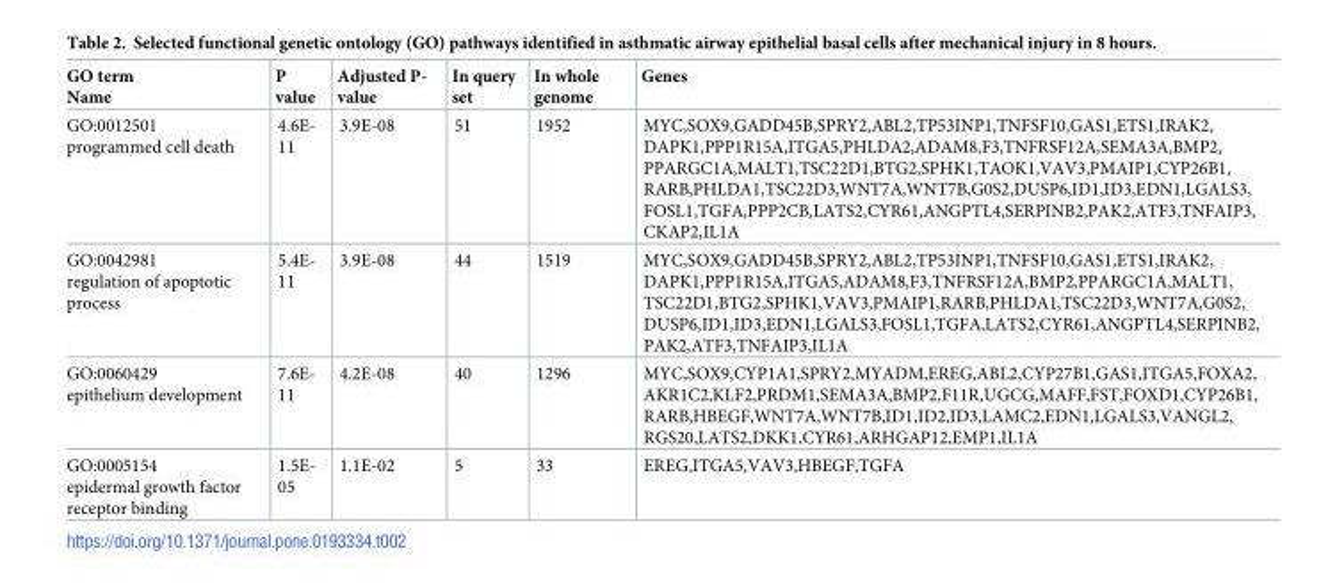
<table><thead><tr><td>GO term Name</td><td>P value</td><td>Adjusted P- value</td><td>In query set</td><td>In whole genome</td><td>Genes</td></tr></thead><tbody><tr><td>GO:0012501 programmed cell death</td><td>4.6E- 11</td><td>3.9E-08</td><td>51</td><td>1952</td><td>MYC,SOX9,GADD45B,SPRY2,ABL2,TP53INP1,TNFSF10,GAS1,ETS1,IRAK2, DAPK1,PPP1R15A,ITGA5,PHLDA2,ADAM8,F3,TNFRSF12A,SEMA3A,BMP2, PPARGC1A,MALT1,TSC22D1,BTG2,SPHK1,TAOK1,VAV3,PMAIP1,CYP26B1, RARB,PHLDA1,TSC22D3,WNT7A,WNT7B,G0S2,DUSP6,ID1,ID3,EDN1,LGALS3, FOSL1,TGFA,PPP2CB,LATS2,CYR61,ANGPTL4,SERPINB2,PAK2,ATF3,TNFAIP3, CKAP2,IL1A</td></tr><tr><td>GO:0042981 regulation of apoptotic process</td><td>5.4E- 11</td><td>3.9E-08</td><td>44</td><td>1519</td><td>MYC,SOX9,GADD45B,SPRY2,ABL2,TP53INP1,TNFSF10,GAS1,ETS1,IRAK2, DAPK1,PPP1R15A,ITGA5,ADAM8,F3,TNFRSF12A,BMP2,PPARGC1A,MALT1, TSC22D1,BTG2,SPHK1,VAV3,PMAIP1,RARB,PHLDA1,TSC22D3,WNT7A,G0S2, DUSP6,ID1,ID3,EDN1,LGALS3,FOSL1,TGFA,LATS2,CYR61,ANGPTL4,SERPINB2, PAK2,ATF3,TNFAIP3,IL1A</td></tr><tr><td>GO:0060429 epithelium development</td><td>7.6E- 11</td><td>4.2E-08</td><td>40</td><td>1296</td><td>MYC,SOX9,CYP1A1,SPRY2,MYADM,EREG,ABL2,CYP27B1,GAS1,ITGA5,FOXA2, AKR1C2,KLF2,PRDM1,SEMA3A,BMP2,F11R,UGCG,MAFF,FST,FOXD1,CYP26B1, RARB,HBEGF,WNT7A,WNT7B,ID1,ID2,ID3,LAMC2,EDN1,LGALS3,VANGL2, RGS20,LATS2,DKK1,CYR61,ARHGAP12,EMP1,IL1A</td></tr><tr><td>GO:0005154 epidermal growth factor receptor binding</td><td>1.5E- 05</td><td>1.1E-02</td><td>5</td><td>33</td><td>EREG,ITGA5,VAV3,HBEGF,TGFA</td></tr></tbody></table>